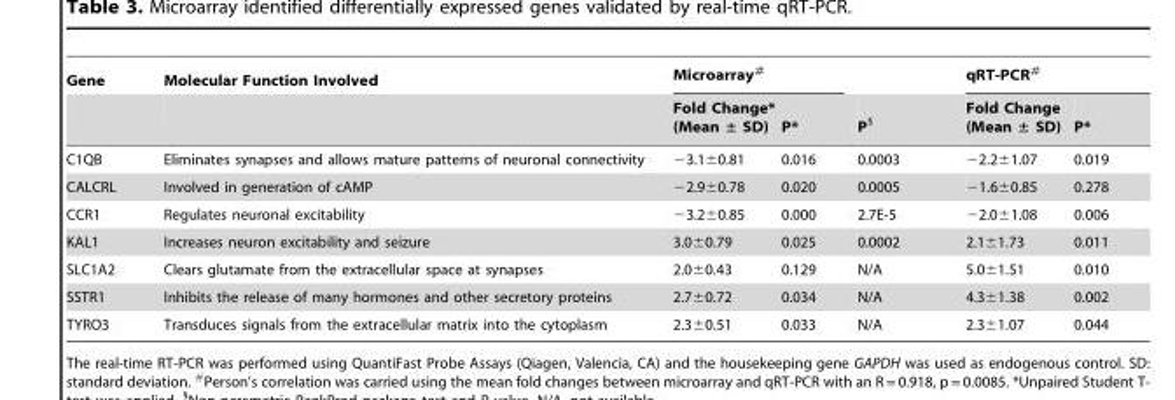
<table><thead><tr><td rowspan="2">Gene</td><td rowspan="2">Molecular Function Involved</td><td colspan="2">Microarray<sup>#</sup></td><td rowspan="2">P<sup>§</sup></td><td colspan="2">qRT-PCR<sup>#</sup></td></tr><tr><td>Fold Change* (Mean ± SD)</td><td>P*</td><td>Fold Change (Mean ± SD)</td><td>P*</td></tr></thead><tbody><tr><td>C1QB</td><td>Eliminates synapses and allows mature patterns of neuronal connectivity</td><td>−3.1±0.81</td><td>0.016</td><td>0.0003</td><td>−2.2±1.07</td><td>0.019</td></tr><tr><td>CALCRL</td><td>Involved in generation of cAMP</td><td>−2.9±0.78</td><td>0.020</td><td>0.0005</td><td>−1.6±0.85</td><td>0.278</td></tr><tr><td>CCR1</td><td>Regulates neuronal excitability</td><td>−3.2±0.85</td><td>0.000</td><td>2.7E-5</td><td>−2.0±1.08</td><td>0.006</td></tr><tr><td>KAL1</td><td>Increases neuron excitability and seizure</td><td>3.0±0.79</td><td>0.025</td><td>0.0002</td><td>2.1±1.73</td><td>0.011</td></tr><tr><td>SLC1A2</td><td>Clears glutamate from the extracellular space at synapses</td><td>2.0±0.43</td><td>0.129</td><td>N/A</td><td>5.0±1.51</td><td>0.010</td></tr><tr><td>SSTR1</td><td>Inhibits the release of many hormones and other secretory proteins</td><td>2.7±0.72</td><td>0.034</td><td>N/A</td><td>4.3±1.38</td><td>0.002</td></tr><tr><td>TYRO3</td><td>Transduces signals from the extracellular matrix into the cytoplasm</td><td>2.3±0.51</td><td>0.033</td><td>N/A</td><td>2.3±1.07</td><td>0.044</td></tr></tbody></table>